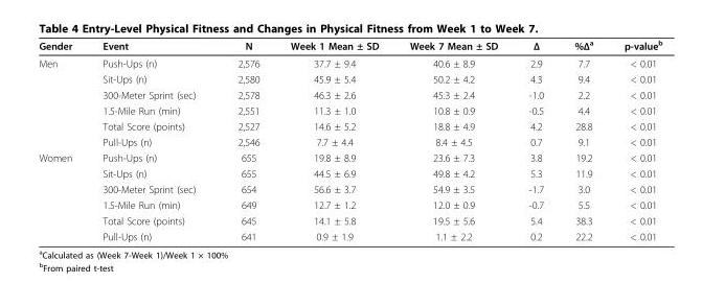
<table><thead><tr><td>Gender</td><td>Event</td><td>N</td><td>Week 1 Mean ± SD</td><td>Week 7 Mean ± SD</td><td>Δ</td><td>%Δ<sup>a</sup></td><td>p-value<sup>b</sup></td></tr></thead><tbody><tr><td rowspan="6">Men</td><td>Push-Ups (n)</td><td>2,576</td><td>37.7 ± 9.4</td><td>40.6 ± 8.9</td><td>2.9</td><td>7.7</td><td>&lt; 0.01</td></tr><tr><td>Sit-Ups (n)</td><td>2,580</td><td>45.9 ± 5.4</td><td>50.2 ± 4.2</td><td>4.3</td><td>9.4</td><td>&lt; 0.01</td></tr><tr><td>300-Meter Sprint (sec)</td><td>2,578</td><td>46.3 ± 2.6</td><td>45.3 ± 2.4</td><td>-1.0</td><td>2.2</td><td>&lt; 0.01</td></tr><tr><td>1.5-Mile Run (min)</td><td>2,551</td><td>11.3 ± 1.0</td><td>10.8 ± 0.9</td><td>-0.5</td><td>4.4</td><td>&lt; 0.01</td></tr><tr><td>Total Score (points)</td><td>2,527</td><td>14.6 ± 5.2</td><td>18.8 ± 4.9</td><td>4.2</td><td>28.8</td><td>&lt; 0.01</td></tr><tr><td>Pull-Ups (n)</td><td>2,546</td><td>7.7 ± 4.4</td><td>8.4 ± 4.5</td><td>0.7</td><td>9.1</td><td>&lt; 0.01</td></tr><tr><td rowspan="6">Women</td><td>Push-Ups (n)</td><td>655</td><td>19.8 ± 8.9</td><td>23.6 ± 7.3</td><td>3.8</td><td>19.2</td><td>&lt; 0.01</td></tr><tr><td>Sit-Ups (n)</td><td>655</td><td>44.5 ± 6.9</td><td>49.8 ± 4.2</td><td>5.3</td><td>11.9</td><td>&lt; 0.01</td></tr><tr><td>300-Meter Sprint (sec)</td><td>654</td><td>56.6 ± 3.7</td><td>54.9 ± 3.5</td><td>-1.7</td><td>3.0</td><td>&lt; 0.01</td></tr><tr><td>1.5-Mile Run (min)</td><td>649</td><td>12.7 ± 1.2</td><td>12.0 ± 0.9</td><td>-0.7</td><td>5.5</td><td>&lt; 0.01</td></tr><tr><td>Total Score (points)</td><td>645</td><td>14.1 ± 5.8</td><td>19.5 ± 5.6</td><td>5.4</td><td>38.3</td><td>&lt; 0.01</td></tr><tr><td>Pull-Ups (n)</td><td>641</td><td>0.9 ± 1.9</td><td>1.1 ± 2.2</td><td>0.2</td><td>22.2</td><td>&lt; 0.01</td></tr></tbody></table>